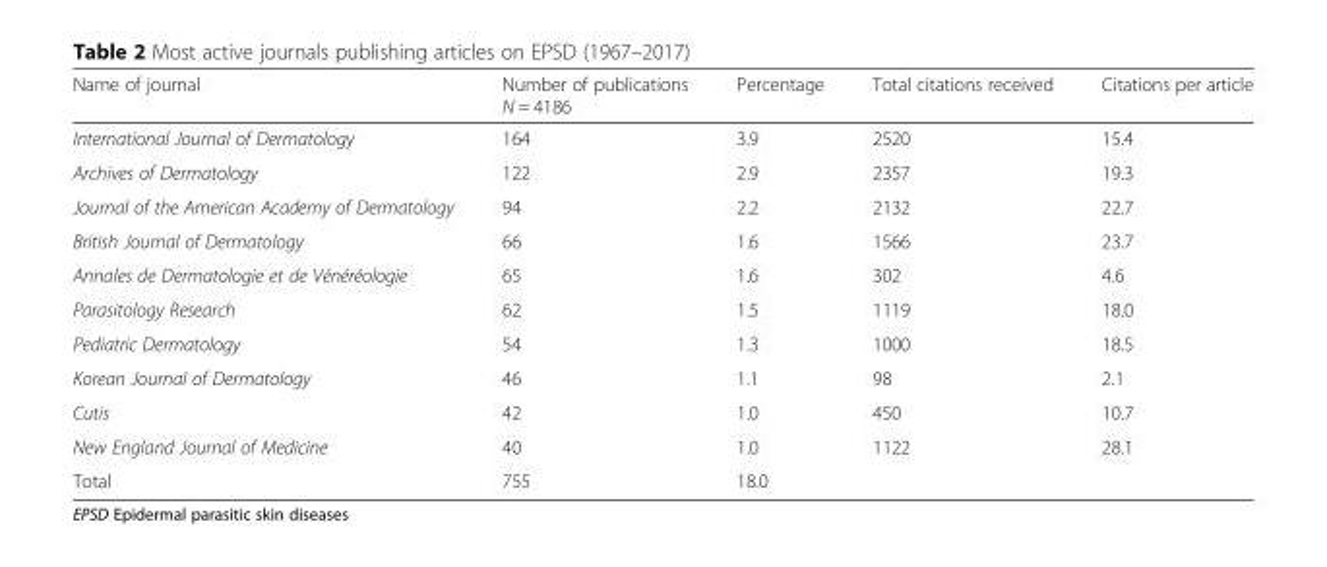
<table><thead><tr><td>Name of journal</td><td>Number of publications N = 4186</td><td>Percentage</td><td>Total citations received</td><td>Citations per article</td></tr></thead><tbody><tr><td>International Journal of Dermatology</td><td>164</td><td>3.9</td><td>2520</td><td>15.4</td></tr><tr><td>Archives of Dermatology</td><td>122</td><td>2.9</td><td>2357</td><td>19.3</td></tr><tr><td>Journal of the American Academy of Dermatology</td><td>94</td><td>2.2</td><td>2132</td><td>22.7</td></tr><tr><td>British Journal of Dermatology</td><td>66</td><td>1.6</td><td>1566</td><td>23.7</td></tr><tr><td>Annales de Dermatologie et de Vénéréologie</td><td>65</td><td>1.6</td><td>302</td><td>4.6</td></tr><tr><td>Parasitology Research</td><td>62</td><td>1.5</td><td>1119</td><td>18.0</td></tr><tr><td>Pediatric Dermatology</td><td>54</td><td>1.3</td><td>1000</td><td>18.5</td></tr><tr><td>Korean Journal of Dermatology</td><td>46</td><td>1.1</td><td>98</td><td>2.1</td></tr><tr><td>Cutis</td><td>42</td><td>1.0</td><td>450</td><td>10.7</td></tr><tr><td>New England Journal of Medicine</td><td>40</td><td>1.0</td><td>1122</td><td>28.1</td></tr><tr><td>Total</td><td>755</td><td>18.0</td><td colspan="2"></td></tr></tbody></table>